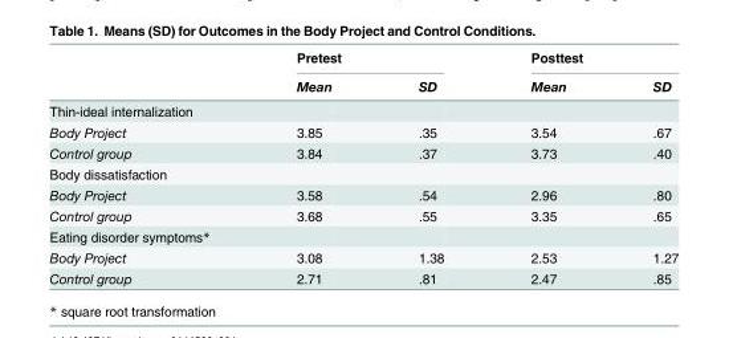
<table><thead><tr><td rowspan="2"></td><td colspan="2">Pretest</td><td colspan="2">Posttest</td></tr><tr><td>Mean</td><td>SD</td><td>Mean</td><td>SD</td></tr></thead><tbody><tr><td colspan="5">Thin-ideal internalization</td></tr><tr><td>Body Project</td><td>3.85</td><td>.35</td><td>3.54</td><td>.67</td></tr><tr><td>Control group</td><td>3.84</td><td>.37</td><td>3.73</td><td>.40</td></tr><tr><td colspan="5">Body dissatisfaction</td></tr><tr><td>Body Project</td><td>3.58</td><td>.54</td><td>2.96</td><td>.80</td></tr><tr><td>Control group</td><td>3.68</td><td>.55</td><td>3.35</td><td>.65</td></tr><tr><td colspan="5">Eating disorder symptoms*</td></tr><tr><td>Body Project</td><td>3.08</td><td>1.38</td><td>2.53</td><td>1.27</td></tr><tr><td>Control group</td><td>2.71</td><td>.81</td><td>2.47</td><td>.85</td></tr></tbody></table>